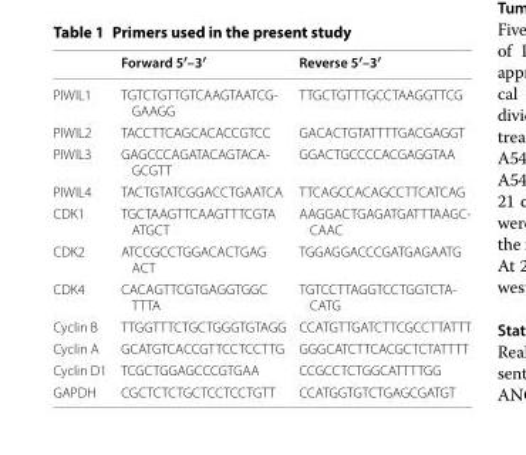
<table><thead><tr><td></td><td>Forward 5′–3′</td><td>Reverse 5′–3′</td></tr></thead><tbody><tr><td>PIWIL1</td><td>TGTCTGTTGTCAAGTAATCG- GAAGG</td><td>TTGCTGTTTGCCTAAGGTTCG</td></tr><tr><td>PIWIL2</td><td>TACCTTCAGCACACCGTCC</td><td>GACACTGTATTTTGACGAGGT</td></tr><tr><td>PIWIL3</td><td>GAGCCCAGATACAGTACA- GCGTT</td><td>GGACTGCCCCACGAGGTAA</td></tr><tr><td>PIWIL4</td><td>TACTGTATCGGACCTGAATCA</td><td>TTCAGCCACAGCCTTCATCAG</td></tr><tr><td>CDK1</td><td>TGCTAAGTTCAAGTTTCGTA ATGCT</td><td>AAGGACTGAGATGATTTAAGC- CAAC</td></tr><tr><td>CDK2</td><td>ATCCGCCTGGACACTGAG ACT</td><td>TGGAGGACCCGATGAGAATG</td></tr><tr><td>CDK4</td><td>CACAGTTCGTGAGGTGGC TTTA</td><td>TGTCCTTAGGTCCTGGTCTA- CATG</td></tr><tr><td>Cyclin B</td><td>TTGGTTTCTGCTGGGTGTAGG</td><td>CCATGTTGATCTTCGCCTTATTT</td></tr><tr><td>Cyclin A</td><td>GCATGTCACCGTTCCTCCTTG</td><td>GGGCATCTTCACGCTCTATTTT</td></tr><tr><td>Cyclin D1</td><td>TCGCTGGAGCCCGTGAA</td><td>CCGCCTCTGGCATTTTGG</td></tr><tr><td>GAPDH</td><td>CGCTCTCTGCTCCTCCTGTT</td><td>CCATGGTGTCTGAGCGATGT</td></tr></tbody></table>